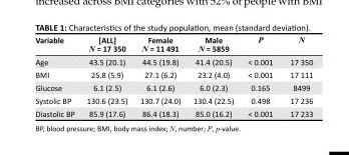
<table><thead><tr><td>Variable</td><td>[ALL] N = 17 350</td><td>Female N = 11 491</td><td>Male N = 5859</td><td>P</td><td>N</td></tr></thead><tbody><tr><td>Age</td><td>43.5 (20.1)</td><td>44.5 (19.8)</td><td>41.4 (20.5)</td><td>&lt; 0.001</td><td>17 350</td></tr><tr><td>BMI</td><td>25.8 (5.9)</td><td>27.1 (6.2)</td><td>23.2 (4.0)</td><td>&lt; 0.001</td><td>17 111</td></tr><tr><td>Glucose</td><td>6.1 (2.5)</td><td>6.1 (2.6)</td><td>6.0 (2.3)</td><td>0.165</td><td>8499</td></tr><tr><td>Systolic BP</td><td>130.6 (23.5)</td><td>130.7 (24.0)</td><td>130.4 (22.5)</td><td>0.498</td><td>17 236</td></tr><tr><td>Diastolic BP</td><td>85.9 (17.6)</td><td>86.4 (18.3)</td><td>85.0 (16.2)</td><td>&lt; 0.001</td><td>17 233</td></tr></tbody></table>